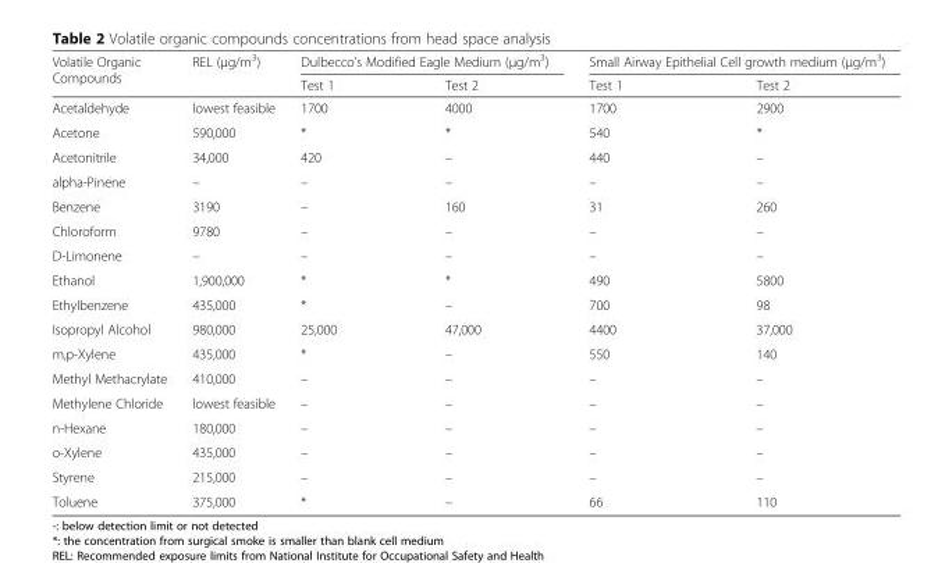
<table><thead><tr><td rowspan="2">Volatile Organic Compounds</td><td rowspan="2">REL (μg/m<sup>3</sup>)</td><td colspan="2">Dulbecco’s Modified Eagle Medium (μg/m<sup>3</sup>)</td><td colspan="2">Small Airway Epithelial Cell growth medium (μg/m<sup>3</sup>)</td></tr><tr><td>Test 1</td><td>Test 2</td><td>Test 1</td><td>Test 2</td></tr></thead><tbody><tr><td>Acetaldehyde</td><td>lowest feasible</td><td>1700</td><td>4000</td><td>1700</td><td>2900</td></tr><tr><td>Acetone</td><td>590,000</td><td>*</td><td>*</td><td>540</td><td>*</td></tr><tr><td>Acetonitrile</td><td>34,000</td><td>420</td><td>–</td><td>440</td><td>–</td></tr><tr><td>alpha-Pinene</td><td>–</td><td>–</td><td>–</td><td>–</td><td>–</td></tr><tr><td>Benzene</td><td>3190</td><td>–</td><td>160</td><td>31</td><td>260</td></tr><tr><td>Chloroform</td><td>9780</td><td>–</td><td>–</td><td>–</td><td>–</td></tr><tr><td>D-Limonene</td><td>–</td><td>–</td><td>–</td><td>–</td><td>–</td></tr><tr><td>Ethanol</td><td>1,900,000</td><td>*</td><td>*</td><td>490</td><td>5800</td></tr><tr><td>Ethylbenzene</td><td>435,000</td><td>*</td><td>–</td><td>700</td><td>98</td></tr><tr><td>Isopropyl Alcohol</td><td>980,000</td><td>25,000</td><td>47,000</td><td>4400</td><td>37,000</td></tr><tr><td>m,p-Xylene</td><td>435,000</td><td>*</td><td>–</td><td>550</td><td>140</td></tr><tr><td>Methyl Methacrylate</td><td>410,000</td><td>–</td><td>–</td><td>–</td><td>–</td></tr><tr><td>Methylene Chloride</td><td>lowest feasible</td><td>–</td><td>–</td><td>–</td><td>–</td></tr><tr><td>n-Hexane</td><td>180,000</td><td>–</td><td>–</td><td>–</td><td>–</td></tr><tr><td>o-Xylene</td><td>435,000</td><td>–</td><td>–</td><td>–</td><td>–</td></tr><tr><td>Styrene</td><td>215,000</td><td>–</td><td>–</td><td>–</td><td>–</td></tr><tr><td>Toluene</td><td>375,000</td><td>*</td><td>–</td><td>66</td><td>110</td></tr></tbody></table>